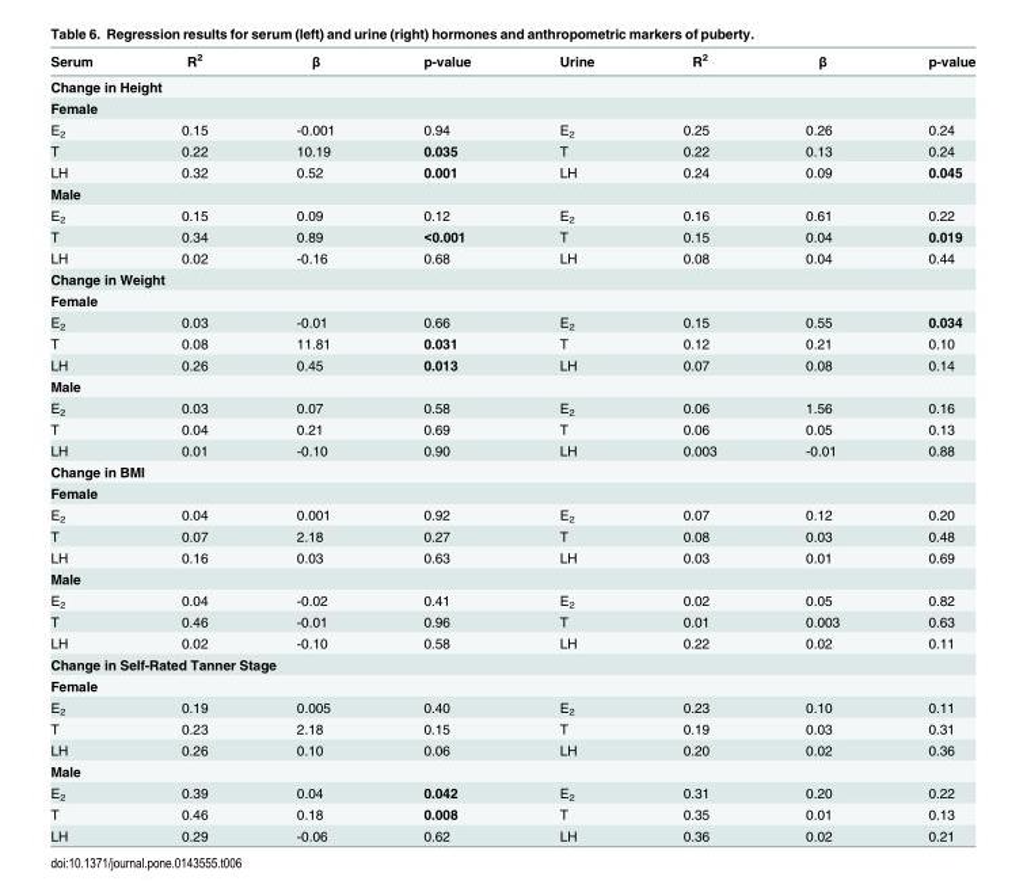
<table><thead><tr><td>Serum</td><td>R<sup>2</sup></td><td>β</td><td>p-value</td><td>Urine</td><td>R<sup>2</sup></td><td>β</td><td>p-value</td></tr></thead><tbody><tr><td colspan="8">Change in Height</td></tr><tr><td colspan="8">Female</td></tr><tr><td>E<sub>2</sub></td><td>0.15</td><td>-0.001</td><td>0.94</td><td>E<sub>2</sub></td><td>0.25</td><td>0.26</td><td>0.24</td></tr><tr><td>T</td><td>0.22</td><td>10.19</td><td>0.035</td><td>T</td><td>0.22</td><td>0.13</td><td>0.24</td></tr><tr><td>LH</td><td>0.32</td><td>0.52</td><td>0.001</td><td>LH</td><td>0.24</td><td>0.09</td><td>0.045</td></tr><tr><td colspan="8">Male</td></tr><tr><td>E<sub>2</sub></td><td>0.15</td><td>0.09</td><td>0.12</td><td>E<sub>2</sub></td><td>0.16</td><td>0.61</td><td>0.22</td></tr><tr><td>T</td><td>0.34</td><td>0.89</td><td>&lt;0.001</td><td>T</td><td>0.15</td><td>0.04</td><td>0.019</td></tr><tr><td>LH</td><td>0.02</td><td>-0.16</td><td>0.68</td><td>LH</td><td>0.08</td><td>0.04</td><td>0.44</td></tr><tr><td colspan="8">Change in Weight</td></tr><tr><td colspan="8">Female</td></tr><tr><td>E<sub>2</sub></td><td>0.03</td><td>-0.01</td><td>0.66</td><td>E<sub>2</sub></td><td>0.15</td><td>0.55</td><td>0.034</td></tr><tr><td>T</td><td>0.08</td><td>11.81</td><td>0.031</td><td>T</td><td>0.12</td><td>0.21</td><td>0.10</td></tr><tr><td>LH</td><td>0.26</td><td>0.45</td><td>0.013</td><td>LH</td><td>0.07</td><td>0.08</td><td>0.14</td></tr><tr><td colspan="8">Male</td></tr><tr><td>E<sub>2</sub></td><td>0.03</td><td>0.07</td><td>0.58</td><td>E<sub>2</sub></td><td>0.06</td><td>1.56</td><td>0.16</td></tr><tr><td>T</td><td>0.04</td><td>0.21</td><td>0.69</td><td>T</td><td>0.06</td><td>0.05</td><td>0.13</td></tr><tr><td>LH</td><td>0.01</td><td>-0.10</td><td>0.90</td><td>LH</td><td>0.003</td><td>-0.01</td><td>0.88</td></tr><tr><td colspan="8">Change in BMI</td></tr><tr><td colspan="8">Female</td></tr><tr><td>E<sub>2</sub></td><td>0.04</td><td>0.001</td><td>0.92</td><td>E<sub>2</sub></td><td>0.07</td><td>0.12</td><td>0.20</td></tr><tr><td>T</td><td>0.07</td><td>2.18</td><td>0.27</td><td>T</td><td>0.08</td><td>0.03</td><td>0.48</td></tr><tr><td>LH</td><td>0.16</td><td>0.03</td><td>0.63</td><td>LH</td><td>0.03</td><td>0.01</td><td>0.69</td></tr><tr><td colspan="8">Male</td></tr><tr><td>E<sub>2</sub></td><td>0.04</td><td>-0.02</td><td>0.41</td><td>E<sub>2</sub></td><td>0.02</td><td>0.05</td><td>0.82</td></tr><tr><td>T</td><td>0.46</td><td>-0.01</td><td>0.96</td><td>T</td><td>0.01</td><td>0.003</td><td>0.63</td></tr><tr><td>LH</td><td>0.02</td><td>-0.10</td><td>0.58</td><td>LH</td><td>0.22</td><td>0.02</td><td>0.11</td></tr><tr><td colspan="8">Change in Self-Rated Tanner Stage</td></tr><tr><td colspan="8">Female</td></tr><tr><td>E<sub>2</sub></td><td>0.19</td><td>0.005</td><td>0.40</td><td>E<sub>2</sub></td><td>0.23</td><td>0.10</td><td>0.11</td></tr><tr><td>T</td><td>0.23</td><td>2.18</td><td>0.15</td><td>T</td><td>0.19</td><td>0.03</td><td>0.31</td></tr><tr><td>LH</td><td>0.26</td><td>0.10</td><td>0.06</td><td>LH</td><td>0.20</td><td>0.02</td><td>0.36</td></tr><tr><td colspan="8">Male</td></tr><tr><td>E<sub>2</sub></td><td>0.39</td><td>0.04</td><td>0.042</td><td>E<sub>2</sub></td><td>0.31</td><td>0.20</td><td>0.22</td></tr><tr><td>T</td><td>0.46</td><td>0.18</td><td>0.008</td><td>T</td><td>0.35</td><td>0.01</td><td>0.13</td></tr><tr><td>LH</td><td>0.29</td><td>-0.06</td><td>0.62</td><td>LH</td><td>0.36</td><td>0.02</td><td>0.21</td></tr></tbody></table>